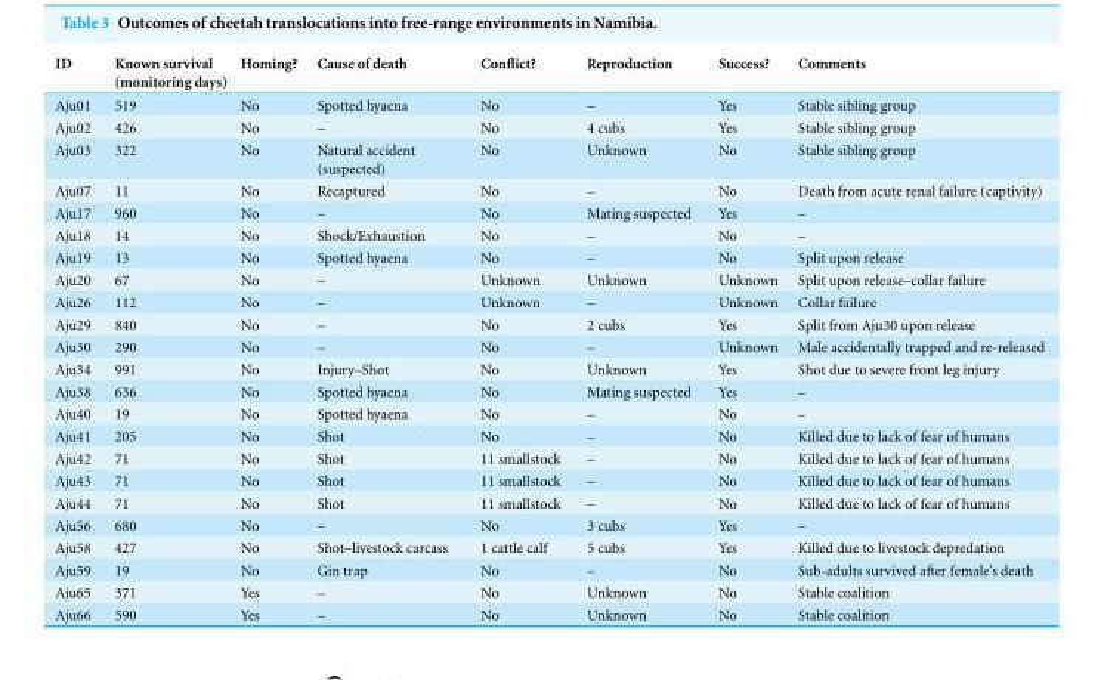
<table><thead><tr><td>ID</td><td>Known survival (monitoring days)</td><td>Homing?</td><td>Cause of death</td><td>Conflict?</td><td>Reproduction</td><td>Success?</td><td>Comments</td></tr></thead><tbody><tr><td>Aju01</td><td>519</td><td>No</td><td>Spotted hyaena</td><td>No</td><td>–</td><td>Yes</td><td>Stable sibling group</td></tr><tr><td>Aju02</td><td>426</td><td>No</td><td>–</td><td>No</td><td>4 cubs</td><td>Yes</td><td>Stable sibling group</td></tr><tr><td>Aju03</td><td>322</td><td>No</td><td>Natural accident (suspected)</td><td>No</td><td>Unknown</td><td>No</td><td>Stable sibling group</td></tr><tr><td>Aju07</td><td>11</td><td>No</td><td>Recaptured</td><td>No</td><td>–</td><td>No</td><td>Death from acute renal failure (captivity)</td></tr><tr><td>Aju17</td><td>960</td><td>No</td><td>–</td><td>No</td><td>Mating suspected</td><td>Yes</td><td>–</td></tr><tr><td>Aju18</td><td>14</td><td>No</td><td>Shock/Exhaustion</td><td>No</td><td>–</td><td>No</td><td>–</td></tr><tr><td>Aju19</td><td>13</td><td>No</td><td>Spotted hyaena</td><td>No</td><td>–</td><td>No</td><td>Split upon release</td></tr><tr><td>Aju20</td><td>67</td><td>No</td><td>–</td><td>Unknown</td><td>Unknown</td><td>Unknown</td><td>Split upon release–collar failure</td></tr><tr><td>Aju26</td><td>112</td><td>No</td><td>–</td><td>Unknown</td><td>–</td><td>Unknown</td><td>Collar failure</td></tr><tr><td>Aju29</td><td>840</td><td>No</td><td>–</td><td>No</td><td>2 cubs</td><td>Yes</td><td>Split from Aju30 upon release</td></tr><tr><td>Aju30</td><td>290</td><td>No</td><td>–</td><td>No</td><td>–</td><td>Unknown</td><td>Male accidentally trapped and re-released</td></tr><tr><td>Aju34</td><td>991</td><td>No</td><td>Injury–Shot</td><td>No</td><td>Unknown</td><td>Yes</td><td>Shot due to severe front leg injury</td></tr><tr><td>Aju38</td><td>636</td><td>No</td><td>Spotted hyaena</td><td>No</td><td>Mating suspected</td><td>Yes</td><td>–</td></tr><tr><td>Aju40</td><td>19</td><td>No</td><td>Spotted hyaena</td><td>No</td><td>–</td><td>No</td><td>–</td></tr><tr><td>Aju41</td><td>205</td><td>No</td><td>Shot</td><td>No</td><td>–</td><td>No</td><td>Killed due to lack of fear of humans</td></tr><tr><td>Aju42</td><td>71</td><td>No</td><td>Shot</td><td>11 smallstock</td><td>–</td><td>No</td><td>Killed due to lack of fear of humans</td></tr><tr><td>Aju43</td><td>71</td><td>No</td><td>Shot</td><td>11 smallstock</td><td>–</td><td>No</td><td>Killed due to lack of fear of humans</td></tr><tr><td>Aju44</td><td>71</td><td>No</td><td>Shot</td><td>11 smallstock</td><td>–</td><td>No</td><td>Killed due to lack of fear of humans</td></tr><tr><td>Aju56</td><td>680</td><td>No</td><td>–</td><td>No</td><td>3 cubs</td><td>Yes</td><td>–</td></tr><tr><td>Aju58</td><td>427</td><td>No</td><td>Shot–livestock carcass</td><td>1 cattle calf</td><td>5 cubs</td><td>Yes</td><td>Killed due to livestock depredation</td></tr><tr><td>Aju59</td><td>19</td><td>No</td><td>Gin trap</td><td>No</td><td>–</td><td>No</td><td>Sub-adults survived after female’s death</td></tr><tr><td>Aju65</td><td>371</td><td>Yes</td><td>–</td><td>No</td><td>Unknown</td><td>No</td><td>Stable coalition</td></tr><tr><td>Aju66</td><td>590</td><td>Yes</td><td>–</td><td>No</td><td>Unknown</td><td>No</td><td>Stable coalition</td></tr></tbody></table>